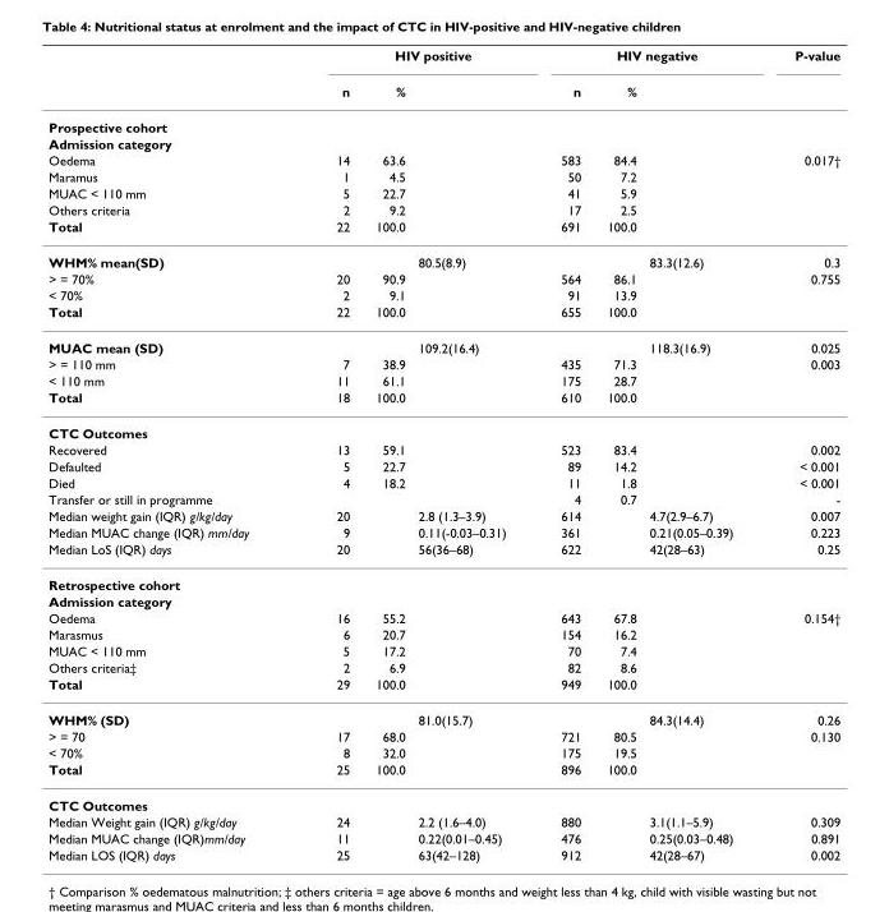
<table><thead><tr><td rowspan="2"></td><td colspan="3">HIV positive</td><td colspan="3">HIV negative</td><td rowspan="2">P-value</td></tr><tr><td>n</td><td>%</td><td></td><td>n</td><td>%</td><td></td></tr></thead><tbody><tr><td colspan="8">Prospective cohort</td></tr><tr><td colspan="8">Admission category</td></tr><tr><td>Oedema</td><td>14</td><td>63.6</td><td></td><td>583</td><td>84.4</td><td></td><td>0.017†</td></tr><tr><td>Maramus</td><td>1</td><td>4.5</td><td></td><td>50</td><td>7.2</td><td></td><td></td></tr><tr><td>MUAC &lt; 110 mm</td><td>5</td><td>22.7</td><td></td><td>41</td><td>5.9</td><td></td><td></td></tr><tr><td>Others criteria</td><td>2</td><td>9.2</td><td></td><td>17</td><td>2.5</td><td></td><td></td></tr><tr><td>Total</td><td>22</td><td>100.0</td><td></td><td>691</td><td>100.0</td><td></td><td></td></tr><tr><td>WHM% mean(SD)</td><td></td><td></td><td>80.5(8.9)</td><td></td><td></td><td>83.3(12.6)</td><td>0.3</td></tr><tr><td>&gt; = 70%</td><td>20</td><td>90.9</td><td></td><td>564</td><td>86.1</td><td></td><td>0.755</td></tr><tr><td>&lt; 70%</td><td>2</td><td>9.1</td><td></td><td>91</td><td>13.9</td><td></td><td></td></tr><tr><td>Total</td><td>22</td><td>100.0</td><td></td><td>655</td><td>100.0</td><td></td><td></td></tr><tr><td>MUAC mean (SD)</td><td></td><td></td><td>109.2(16.4)</td><td></td><td></td><td>118.3(16.9)</td><td>0.025</td></tr><tr><td>&gt; = 110 mm</td><td>7</td><td>38.9</td><td></td><td>435</td><td>71.3</td><td></td><td>0.003</td></tr><tr><td>&lt; 110 mm</td><td>11</td><td>61.1</td><td></td><td>175</td><td>28.7</td><td></td><td></td></tr><tr><td>Total</td><td>18</td><td>100.0</td><td></td><td>610</td><td>100.0</td><td></td><td></td></tr><tr><td colspan="8">CTC Outcomes</td></tr><tr><td>Recovered</td><td>13</td><td>59.1</td><td></td><td>523</td><td>83.4</td><td></td><td>0.002</td></tr><tr><td>Defaulted</td><td>5</td><td>22.7</td><td></td><td>89</td><td>14.2</td><td></td><td>&lt; 0.001</td></tr><tr><td>Died</td><td>4</td><td>18.2</td><td></td><td>11</td><td>1.8</td><td></td><td>&lt; 0.001</td></tr><tr><td>Transfer or still in programme</td><td></td><td></td><td></td><td>4</td><td>0.7</td><td></td><td>-</td></tr><tr><td>Median weight gain (IQR) g/kg/day</td><td>20</td><td></td><td>2.8 (1.3–3.9)</td><td>614</td><td></td><td>4.7(2.9–6.7)</td><td>0.007</td></tr><tr><td>Median MUAC change (IQR) mm/day</td><td>9</td><td></td><td>0.11(-0.03–0.31)</td><td>361</td><td></td><td>0.21(0.05–0.39)</td><td>0.223</td></tr><tr><td>Median LoS (IQR) days</td><td>20</td><td></td><td>56(36–68)</td><td>622</td><td></td><td>42(28–63)</td><td>0.25</td></tr><tr><td colspan="8">Retrospective cohort</td></tr><tr><td colspan="8">Admission category</td></tr><tr><td>Oedema</td><td>16</td><td>55.2</td><td></td><td>643</td><td>67.8</td><td></td><td>0.154†</td></tr><tr><td>Marasmus</td><td>6</td><td>20.7</td><td></td><td>154</td><td>16.2</td><td></td><td></td></tr><tr><td>MUAC &lt; 110 mm</td><td>5</td><td>17.2</td><td></td><td>70</td><td>7.4</td><td></td><td></td></tr><tr><td>Others criteria‡</td><td>2</td><td>6.9</td><td></td><td>82</td><td>8.6</td><td></td><td></td></tr><tr><td>Total</td><td>29</td><td>100.0</td><td></td><td>949</td><td>100.0</td><td></td><td></td></tr><tr><td>WHM% (SD)</td><td></td><td></td><td>81.0(15.7)</td><td></td><td></td><td>84.3(14.4)</td><td>0.26</td></tr><tr><td>&gt; = 70</td><td>17</td><td>68.0</td><td></td><td>721</td><td>80.5</td><td></td><td>0.130</td></tr><tr><td>&lt; 70%</td><td>8</td><td>32.0</td><td></td><td>175</td><td>19.5</td><td></td><td></td></tr><tr><td>Total</td><td>25</td><td>100.0</td><td></td><td>896</td><td>100.0</td><td></td><td></td></tr><tr><td colspan="8">CTC Outcomes</td></tr><tr><td>Median Weight gain (IQR) g/kg/day</td><td>24</td><td></td><td>2.2 (1.6–4.0)</td><td>880</td><td></td><td>3.1(1.1–5.9)</td><td>0.309</td></tr><tr><td>Median MUAC change (IQR)mm/day</td><td>11</td><td></td><td>0.22(0.01–0.45)</td><td>476</td><td></td><td>0.25(0.03–0.48)</td><td>0.891</td></tr><tr><td>Median LOS (IQR) days</td><td>25</td><td></td><td>63(42–128)</td><td>912</td><td></td><td>42(28–67)</td><td>0.002</td></tr></tbody></table>